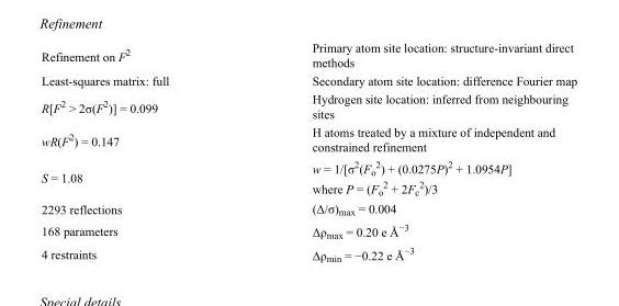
<table><tbody><tr><td>Refinement on F<sup>2</sup></td><td>Primary atom site location: structure-invariant direct methods</td></tr><tr><td>Least-squares matrix: full</td><td>Secondary atom site location: difference Fourier map</td></tr><tr><td>R[F<sup>2</sup> &gt; 2σ(F<sup>2</sup>)] = 0.099</td><td>Hydrogen site location: inferred from neighbouring sites</td></tr><tr><td>wR(F<sup>2</sup>) = 0.147</td><td>H atoms treated by a mixture of independent and constrained refinement</td></tr><tr><td>S = 1.08</td><td>w = 1/[σ<sup>2</sup>(F<sub>o</sub> <sup>2</sup>) + (0.0275P)<sup>2</sup> + 1.0954P] where P = (F<sub>o</sub> <sup>2</sup> + 2F<sub>c</sub> <sup>2</sup>)/3</td></tr><tr><td>2293 reflections</td><td>(Δ/σ)<sub>max</sub> = 0.004</td></tr><tr><td>168 parameters</td><td>Δρ<sub>max</sub> = 0.20 e Å<sup>−3</sup></td></tr><tr><td>4 restraints</td><td>Δρ<sub>min</sub> = −0.22 e Å<sup>−3</sup></td></tr></tbody></table>